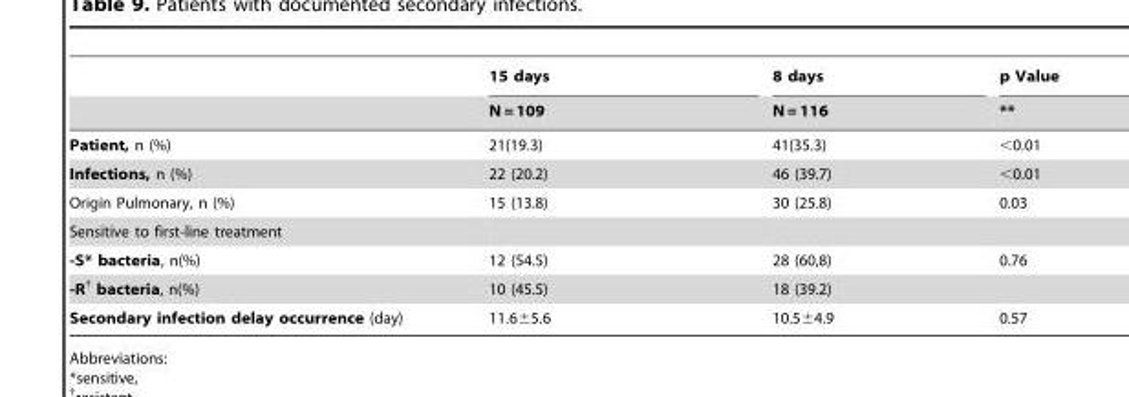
<table><thead><tr><td rowspan="2"></td><td rowspan="2">15 days N = 109</td><td rowspan="2">8 days N = 116</td><td rowspan="2">p Value **</td></tr><tr></tr></thead><tbody><tr><td>Patient, n (%)</td><td>21(19.3)</td><td>41(35.3)</td><td>&lt;0.01</td></tr><tr><td>Infections, n (%)</td><td>22 (20.2)</td><td>46 (39.7)</td><td>&lt;0.01</td></tr><tr><td>Origin Pulmonary, n (%)</td><td>15 (13.8)</td><td>30 (25.8)</td><td>0.03</td></tr><tr><td colspan="4">Sensitive to first-line treatment</td></tr><tr><td>-S* bacteria, n(%)</td><td>12 (54.5)</td><td>28 (60,8)</td><td>0.76</td></tr><tr><td>-R† bacteria, n(%)</td><td>10 (45.5)</td><td>18 (39.2)</td><td></td></tr><tr><td>Secondary infection delay occurrence (day)</td><td>11.6±5.6</td><td>10.5±4.9</td><td>0.57</td></tr></tbody></table>